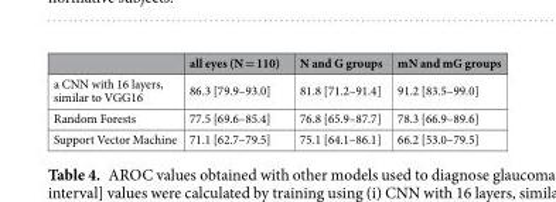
<table><thead><tr><td></td><td>all eyes (N = 110)</td><td>N and G groups</td><td>mN and mG groups</td></tr></thead><tbody><tr><td>a CNN with 16 layers, similar to VGG16</td><td>86.3 [79.9–93.0]</td><td>81.8 [71.2–91.4]</td><td>91.2 [83.5–99.0]</td></tr><tr><td>Random Forests</td><td>77.5 [69.6–85.4]</td><td>76.8 [65.9–87.7]</td><td>78.3 [66.9–89.6]</td></tr><tr><td>Support Vector Machine</td><td>71.1 [62.7–79.5]</td><td>75.1 [64.1–86.1]</td><td>66.2 [53.0–79.5]</td></tr></tbody></table>